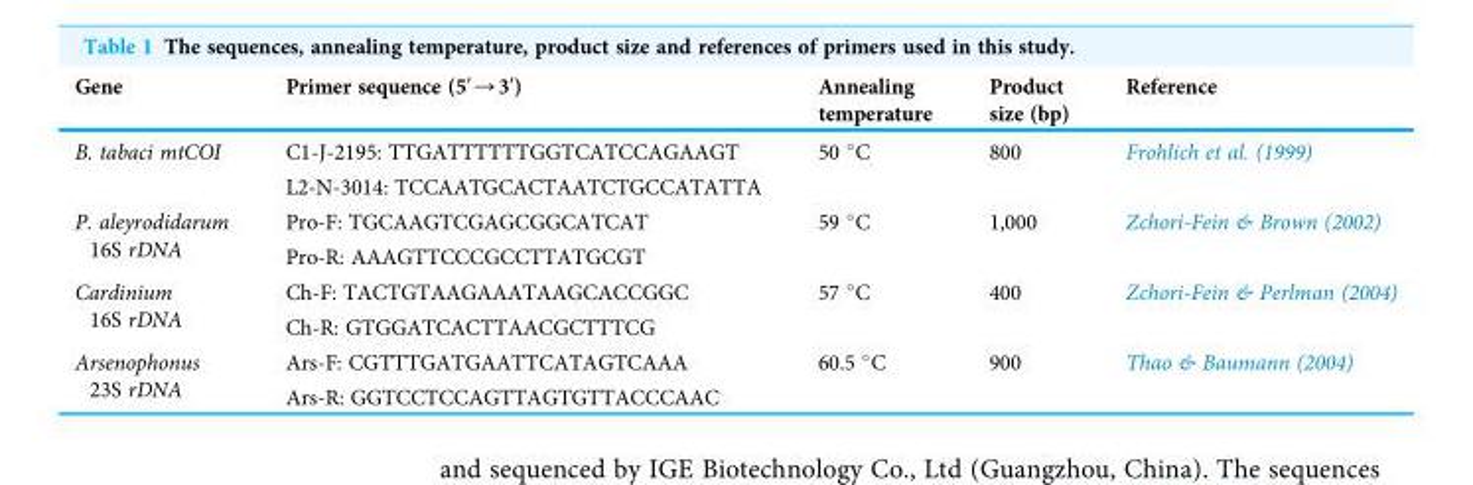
<table><thead><tr><td>Gene</td><td>Primer sequence (5′→3′)</td><td>Annealing temperature</td><td>Product size (bp)</td><td>Reference</td></tr></thead><tbody><tr><td rowspan="2">B. tabaci mtCOI</td><td>C1-J-2195: TTGATTTTTTGGTCATCCAGAAGT</td><td>50 °C</td><td>800</td><td>Frohlich et al. (1999)</td></tr><tr><td>L2-N-3014: TCCAATGCACTAATCTGCCATATTA</td><td></td><td></td><td></td></tr><tr><td rowspan="2">P. aleyrodidarum 16S rDNA</td><td>Pro-F: TGCAAGTCGAGCGGCATCAT</td><td>59 °C</td><td>1,000</td><td>Zchori-Fein &amp; Brown (2002)</td></tr><tr><td>Pro-R: AAAGTTCCCGCCTTATGCGT</td><td></td><td></td><td></td></tr><tr><td rowspan="2">Cardinium 16S rDNA</td><td>Ch-F: TACTGTAAGAAATAAGCACCGGC</td><td>57 °C</td><td>400</td><td rowspan="2">Zchori‐Fein &amp; Perlman (2004)</td></tr><tr><td>Ch-R: GTGGATCACTTAACGCTTTCG</td><td></td><td></td></tr><tr><td rowspan="2">Arsenophonus 23S rDNA</td><td>Ars-F: CGTTTGATGAATTCATAGTCAAA</td><td>60.5 °C</td><td>900</td><td>Thao &amp; Baumann (2004)</td></tr><tr><td>Ars-R: GGTCCTCCAGTTAGTGTTACCCAAC</td><td></td><td></td><td></td></tr></tbody></table>